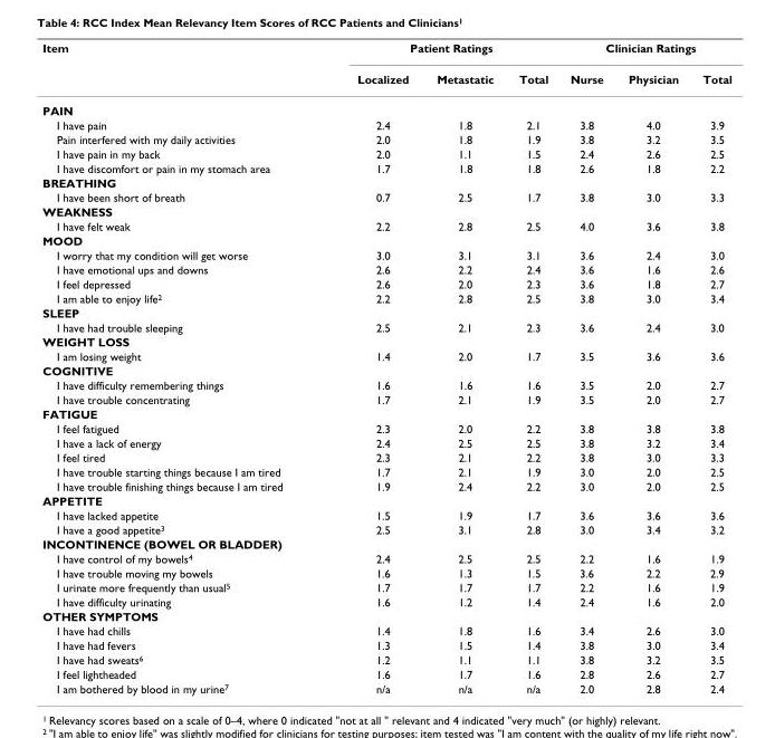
<table><thead><tr><td rowspan="2">Item</td><td colspan="3">Patient Ratings</td><td colspan="3">Clinician Ratings</td></tr><tr><td>Localized</td><td>Metastatic</td><td>Total</td><td>Nurse</td><td>Physician</td><td>Total</td></tr></thead><tbody><tr><td colspan="7">PAIN</td></tr><tr><td>I have pain</td><td>2.4</td><td>1.8</td><td>2.1</td><td>3.8</td><td>4.0</td><td>3.9</td></tr><tr><td>Pain interfered with my daily activities</td><td>2.0</td><td>1.8</td><td>1.9</td><td>3.8</td><td>3.2</td><td>3.5</td></tr><tr><td>I have pain in my back</td><td>2.0</td><td>1.1</td><td>1.5</td><td>2.4</td><td>2.6</td><td>2.5</td></tr><tr><td>I have discomfort or pain in my stomach area</td><td>1.7</td><td>1.8</td><td>1.8</td><td>2.6</td><td>1.8</td><td>2.2</td></tr><tr><td colspan="7">BREATHING</td></tr><tr><td>I have been short of breath</td><td>0.7</td><td>2.5</td><td>1.7</td><td>3.8</td><td>3.0</td><td>3.3</td></tr><tr><td colspan="7">WEAKNESS</td></tr><tr><td>I have felt weak</td><td>2.2</td><td>2.8</td><td>2.5</td><td>4.0</td><td>3.6</td><td>3.8</td></tr><tr><td colspan="7">MOOD</td></tr><tr><td>I worry that my condition will get worse</td><td>3.0</td><td>3.1</td><td>3.1</td><td>3.6</td><td>2.4</td><td>3.0</td></tr><tr><td>I have emotional ups and downs</td><td>2.6</td><td>2.2</td><td>2.4</td><td>3.6</td><td>1.6</td><td>2.6</td></tr><tr><td>I feel depressed</td><td>2.6</td><td>2.0</td><td>2.3</td><td>3.6</td><td>1.8</td><td>2.7</td></tr><tr><td>I am able to enjoy life<sup>2</sup></td><td>2.2</td><td>2.8</td><td>2.5</td><td>3.8</td><td>3.0</td><td>3.4</td></tr><tr><td colspan="7">SLEEP</td></tr><tr><td>I have had trouble sleeping</td><td>2.5</td><td>2.1</td><td>2.3</td><td>3.6</td><td>2.4</td><td>3.0</td></tr><tr><td colspan="7">WEIGHT LOSS</td></tr><tr><td>I am losing weight</td><td>1.4</td><td>2.0</td><td>1.7</td><td>3.5</td><td>3.6</td><td>3.6</td></tr><tr><td colspan="7">COGNITIVE</td></tr><tr><td>I have difficulty remembering things</td><td>1.6</td><td>1.6</td><td>1.6</td><td>3.5</td><td>2.0</td><td>2.7</td></tr><tr><td>I have trouble concentrating</td><td>1.7</td><td>2.1</td><td>1.9</td><td>3.5</td><td>2.0</td><td>2.7</td></tr><tr><td colspan="7">FATIGUE</td></tr><tr><td>I feel fatigued</td><td>2.3</td><td>2.0</td><td>2.2</td><td>3.8</td><td>3.8</td><td>3.8</td></tr><tr><td>I have a lack of energy</td><td>2.4</td><td>2.5</td><td>2.5</td><td>3.8</td><td>3.2</td><td>3.4</td></tr><tr><td>I feel tired</td><td>2.3</td><td>2.1</td><td>2.2</td><td>3.8</td><td>3.0</td><td>3.3</td></tr><tr><td>I have trouble starting things because I am tired</td><td>1.7</td><td>2.1</td><td>1.9</td><td>3.0</td><td>2.0</td><td>2.5</td></tr><tr><td>I have trouble finishing things because I am tired</td><td>1.9</td><td>2.4</td><td>2.2</td><td>3.0</td><td>2.0</td><td>2.5</td></tr><tr><td colspan="7">APPETITE</td></tr><tr><td>I have lacked appetite</td><td>1.5</td><td>1.9</td><td>1.7</td><td>3.6</td><td>3.6</td><td>3.6</td></tr><tr><td>I have a good appetite<sup>3</sup></td><td>2.5</td><td>3.1</td><td>2.8</td><td>3.0</td><td>3.4</td><td>3.2</td></tr><tr><td colspan="7">INCONTINENCE (BOWEL OR BLADDER)</td></tr><tr><td>I have control of my bowels<sup>4</sup></td><td>2.4</td><td>2.5</td><td>2.5</td><td>2.2</td><td>1.6</td><td>1.9</td></tr><tr><td>I have trouble moving my bowels</td><td>1.6</td><td>1.3</td><td>1.5</td><td>3.6</td><td>2.2</td><td>2.9</td></tr><tr><td>I urinate more frequently than usual<sup>5</sup></td><td>1.7</td><td>1.7</td><td>1.7</td><td>2.2</td><td>1.6</td><td>1.9</td></tr><tr><td>I have difficulty urinating</td><td>1.6</td><td>1.2</td><td>1.4</td><td>2.4</td><td>1.6</td><td>2.0</td></tr><tr><td colspan="7">OTHER SYMPTOMS</td></tr><tr><td>I have had chills</td><td>1.4</td><td>1.8</td><td>1.6</td><td>3.4</td><td>2.6</td><td>3.0</td></tr><tr><td>I have had fevers</td><td>1.3</td><td>1.5</td><td>1.4</td><td>3.8</td><td>3.0</td><td>3.4</td></tr><tr><td>I have had sweats<sup>6</sup></td><td>1.2</td><td>1.1</td><td>1.1</td><td>3.8</td><td>3.2</td><td>3.5</td></tr><tr><td>I feel lightheaded</td><td>1.6</td><td>1.7</td><td>1.6</td><td>2.8</td><td>2.6</td><td>2.7</td></tr><tr><td>I am bothered by blood in my urine<sup>7</sup></td><td>n/a</td><td>n/a</td><td>n/a</td><td>2.0</td><td>2.8</td><td>2.4</td></tr></tbody></table>